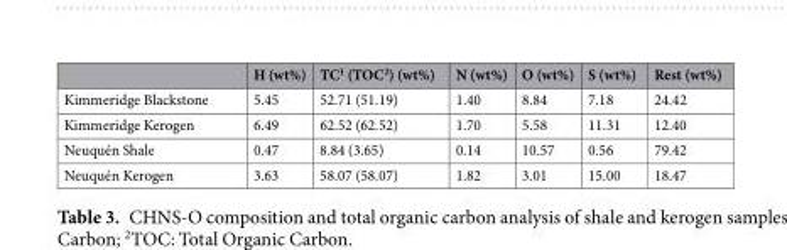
<table><thead><tr><td></td><td>H (wt%)</td><td>TC<sup>1</sup> (TOC<sup>2</sup>) (wt%)</td><td>N (wt%)</td><td>O (wt%)</td><td>S (wt%)</td><td>Rest (wt%)</td></tr></thead><tbody><tr><td>Kimmeridge Blackstone</td><td>5.45</td><td>52.71 (51.19)</td><td>1.40</td><td>8.84</td><td>7.18</td><td>24.42</td></tr><tr><td>Kimmeridge Kerogen</td><td>6.49</td><td>62.52 (62.52)</td><td>1.70</td><td>5.58</td><td>11.31</td><td>12.40</td></tr><tr><td>Neuquén Shale</td><td>0.47</td><td>8.84 (3.65)</td><td>0.14</td><td>10.57</td><td>0.56</td><td>79.42</td></tr><tr><td>Neuquén Kerogen</td><td>3.63</td><td>58.07 (58.07)</td><td>1.82</td><td>3.01</td><td>15.00</td><td>18.47</td></tr></tbody></table>